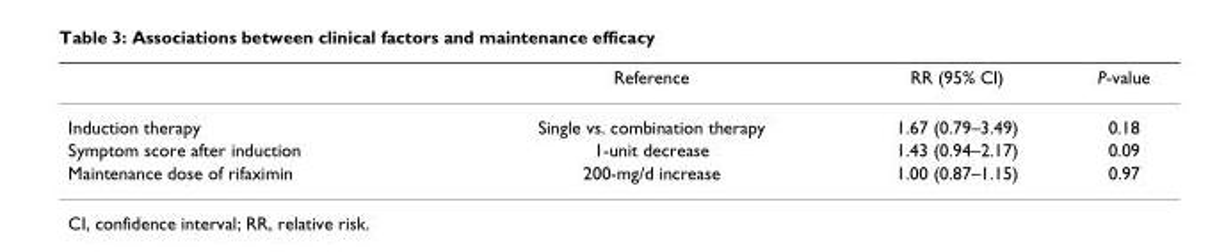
<table><thead><tr><td></td><td>Reference</td><td>RR (95% CI)</td><td>P-value</td></tr></thead><tbody><tr><td>Induction therapy</td><td>Single vs. combination therapy</td><td>1.67 (0.79–3.49)</td><td>0.18</td></tr><tr><td>Symptom score after induction</td><td>1-unit decrease</td><td>1.43 (0.94–2.17)</td><td>0.09</td></tr><tr><td>Maintenance dose of rifaximin</td><td>200-mg/d increase</td><td>1.00 (0.87–1.15)</td><td>0.97</td></tr></tbody></table>